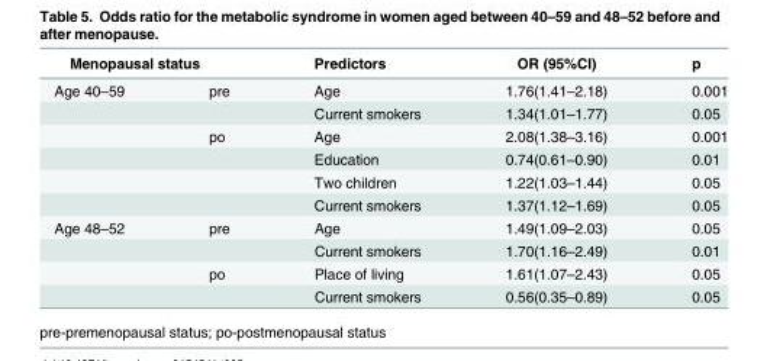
<table><thead><tr><td colspan="2">Menopausal status</td><td rowspan="2">Predictors Age</td><td rowspan="2">OR (95%CI) 1.76(1.41–2.18)</td><td rowspan="2">p 0.001</td></tr><tr><td>Age 40–59</td><td>pre</td></tr></thead><tbody><tr><td></td><td></td><td>Current smokers</td><td>1.34(1.01–1.77)</td><td>0.05</td></tr><tr><td></td><td>po</td><td>Age</td><td>2.08(1.38–3.16)</td><td>0.001</td></tr><tr><td></td><td></td><td>Education</td><td>0.74(0.61–0.90)</td><td>0.01</td></tr><tr><td></td><td></td><td>Two children</td><td>1.22(1.03–1.44)</td><td>0.05</td></tr><tr><td></td><td></td><td>Current smokers</td><td>1.37(1.12–1.69)</td><td>0.05</td></tr><tr><td rowspan="4">Age 48–52</td><td>pre</td><td>Age</td><td>1.49(1.09–2.03)</td><td>0.05</td></tr><tr><td></td><td>Current smokers</td><td>1.70(1.16–2.49)</td><td>0.01</td></tr><tr><td>po</td><td>Place of living</td><td>1.61(1.07–2.43)</td><td>0.05</td></tr><tr><td></td><td>Current smokers</td><td>0.56(0.35–0.89)</td><td>0.05</td></tr></tbody></table>